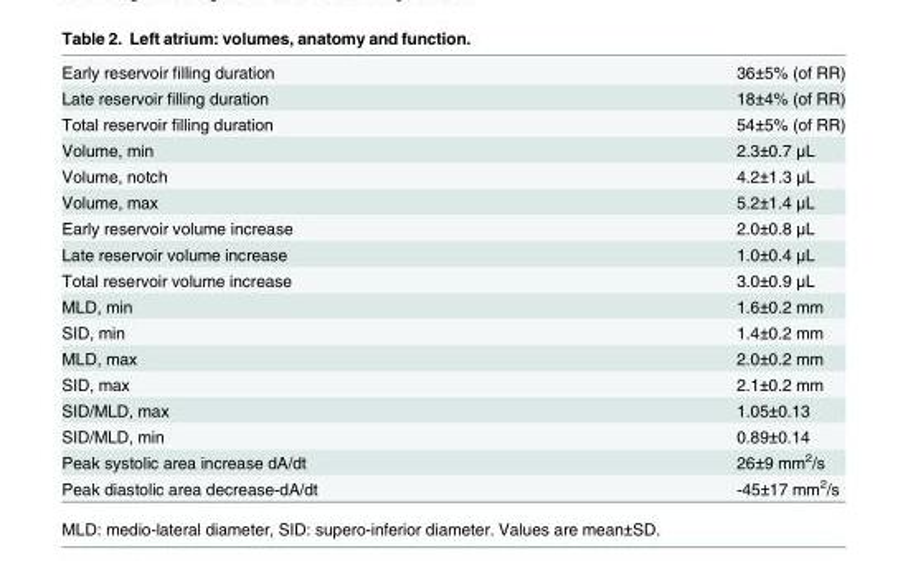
<table><tbody><tr><td>Early reservoir filling duration</td><td>36±5% (of RR)</td></tr><tr><td>Late reservoir filling duration</td><td>18±4% (of RR)</td></tr><tr><td>Total reservoir filling duration</td><td>54±5% (of RR)</td></tr><tr><td>Volume, min</td><td>2.3±0.7 μL</td></tr><tr><td>Volume, notch</td><td>4.2±1.3 μL</td></tr><tr><td>Volume, max</td><td>5.2±1.4 μL</td></tr><tr><td>Early reservoir volume increase</td><td>2.0±0.8 μL</td></tr><tr><td>Late reservoir volume increase</td><td>1.0±0.4 μL</td></tr><tr><td>Total reservoir volume increase</td><td>3.0±0.9 μL</td></tr><tr><td>MLD, min</td><td>1.6±0.2 mm</td></tr><tr><td>SID, min</td><td>1.4±0.2 mm</td></tr><tr><td>MLD, max</td><td>2.0±0.2 mm</td></tr><tr><td>SID, max</td><td>2.1±0.2 mm</td></tr><tr><td>SID/MLD, max</td><td>1.05±0.13</td></tr><tr><td>SID/MLD, min</td><td>0.89±0.14</td></tr><tr><td>Peak systolic area increase dA/dt</td><td>26±9 mm<sup>2</sup>/s</td></tr><tr><td>Peak diastolic area decrease-dA/dt</td><td>-45±17 mm<sup>2</sup>/s</td></tr></tbody></table>